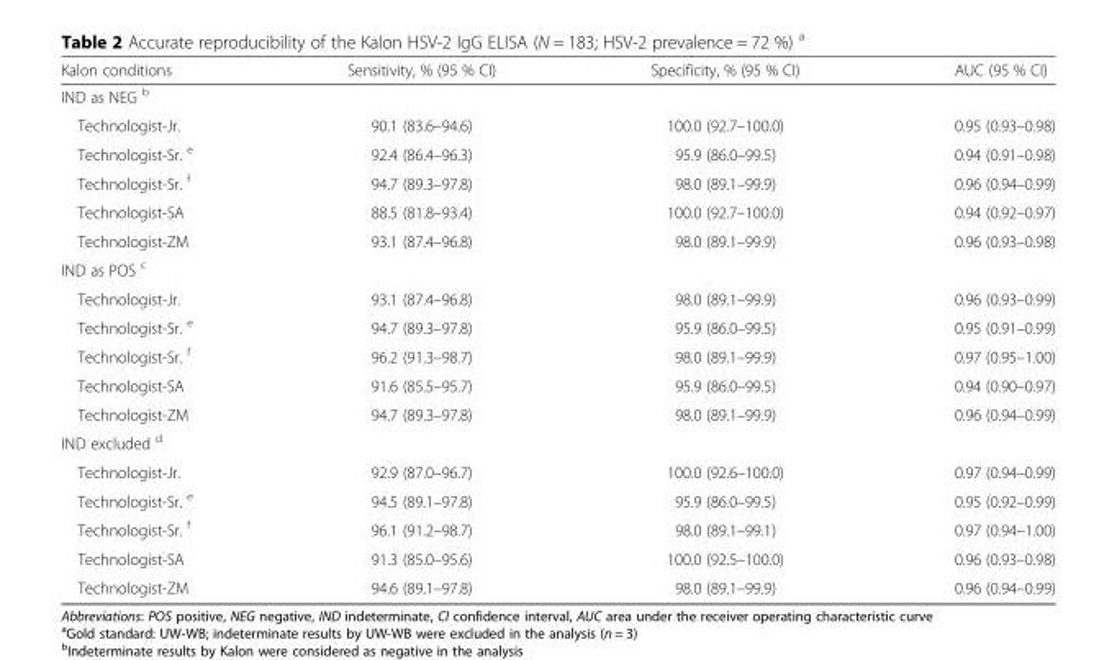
<table><thead><tr><td>Kalon conditions</td><td>Sensitivity, % (95 % CI)</td><td>Specificity, % (95 % CI)</td><td>AUC (95 % CI)</td></tr></thead><tbody><tr><td colspan="4">IND as NEG <sup>b</sup></td></tr><tr><td>Technologist-Jr.</td><td>90.1 (83.6–94.6)</td><td>100.0 (92.7–100.0)</td><td>0.95 (0.93–0.98)</td></tr><tr><td>Technologist-Sr. <sup>e</sup></td><td>92.4 (86.4–96.3)</td><td>95.9 (86.0–99.5)</td><td>0.94 (0.91–0.98)</td></tr><tr><td>Technologist-Sr. <sup>f</sup></td><td>94.7 (89.3–97.8)</td><td>98.0 (89.1–99.9)</td><td>0.96 (0.94–0.99)</td></tr><tr><td>Technologist-SA</td><td>88.5 (81.8–93.4)</td><td>100.0 (92.7–100.0)</td><td>0.94 (0.92–0.97)</td></tr><tr><td>Technologist-ZM</td><td>93.1 (87.4–96.8)</td><td>98.0 (89.1–99.9)</td><td>0.96 (0.93–0.98)</td></tr><tr><td colspan="4">IND as POS <sup>c</sup></td></tr><tr><td>Technologist-Jr.</td><td>93.1 (87.4–96.8)</td><td>98.0 (89.1–99.9)</td><td>0.96 (0.93–0.99)</td></tr><tr><td>Technologist-Sr. <sup>e</sup></td><td>94.7 (89.3–97.8)</td><td>95.9 (86.0–99.5)</td><td>0.95 (0.91–0.99)</td></tr><tr><td>Technologist-Sr. <sup>f</sup></td><td>96.2 (91.3–98.7)</td><td>98.0 (89.1–99.9)</td><td>0.97 (0.95–1.00)</td></tr><tr><td>Technologist-SA</td><td>91.6 (85.5–95.7)</td><td>95.9 (86.0–99.5)</td><td>0.94 (0.90–0.97)</td></tr><tr><td>Technologist-ZM</td><td>94.7 (89.3–97.8)</td><td>98.0 (89.1–99.9)</td><td>0.96 (0.94–0.99)</td></tr><tr><td colspan="4">IND excluded <sup>d</sup></td></tr><tr><td>Technologist-Jr.</td><td>92.9 (87.0–96.7)</td><td>100.0 (92.6–100.0)</td><td>0.97 (0.94–0.99)</td></tr><tr><td>Technologist-Sr. <sup>e</sup></td><td>94.5 (89.1–97.8)</td><td>95.9 (86.0–99.5)</td><td>0.95 (0.92–0.99)</td></tr><tr><td>Technologist-Sr. <sup>f</sup></td><td>96.1 (91.2–98.7)</td><td>98.0 (89.1–99.1)</td><td>0.97 (0.94–1.00)</td></tr><tr><td>Technologist-SA</td><td>91.3 (85.0–95.6)</td><td>100.0 (92.5–100.0)</td><td>0.96 (0.93–0.98)</td></tr><tr><td>Technologist-ZM</td><td>94.6 (89.1–97.8)</td><td>98.0 (89.1–99.9)</td><td>0.96 (0.94–0.99)</td></tr></tbody></table>